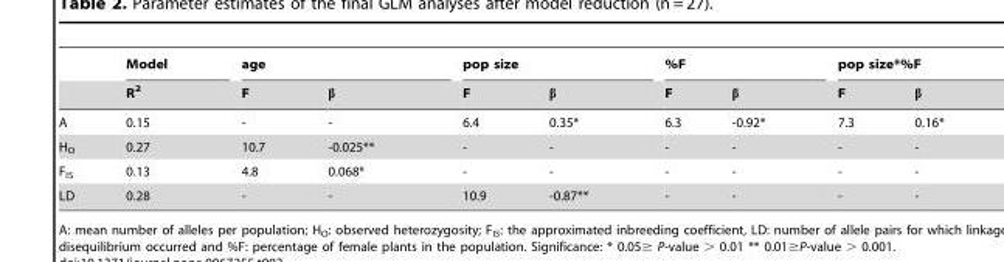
<table><thead><tr><td rowspan="2"></td><td rowspan="2">Model R<sup>2</sup></td><td colspan="2">age</td><td colspan="2">pop size</td><td colspan="2">%F</td><td colspan="2">pop size*%F</td></tr><tr><td>F</td><td>β</td><td>F</td><td>β</td><td>F</td><td>β</td><td>F</td><td>β</td></tr></thead><tbody><tr><td>A</td><td>0.15</td><td>-</td><td>-</td><td>6.4</td><td>0.35*</td><td>6.3</td><td>-0.92*</td><td>7.3</td><td>0.16*</td></tr><tr><td>H<sub>O</sub></td><td>0.27</td><td>10.7</td><td>-0.025**</td><td>-</td><td>-</td><td>-</td><td>-</td><td>-</td><td>-</td></tr><tr><td>F<sub>IS</sub></td><td>0.13</td><td>4.8</td><td>0.068*</td><td>-</td><td>-</td><td>-</td><td>-</td><td>-</td><td>-</td></tr><tr><td>LD</td><td>0.28</td><td>-</td><td>-</td><td>10.9</td><td>-0.87**</td><td>-</td><td>-</td><td>-</td><td>-</td></tr></tbody></table>